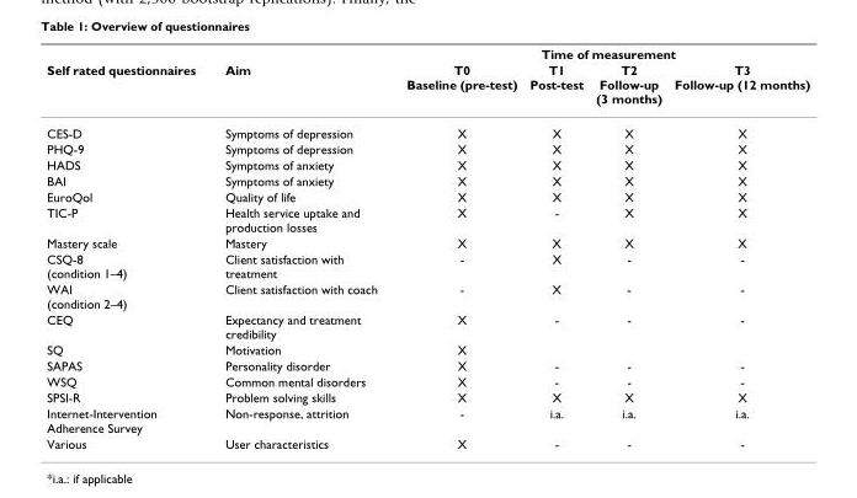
<table><thead><tr><td rowspan="2">Self rated questionnaires</td><td rowspan="2">Aim</td><td colspan="4">Time of measurement</td></tr><tr><td>T0 Baseline (pre-test)</td><td>T1 Post-test</td><td>T2 Follow-up (3 months)</td><td>T3 Follow-up (12 months)</td></tr></thead><tbody><tr><td>CES-D</td><td>Symptoms of depression</td><td>X</td><td>X</td><td>X</td><td>X</td></tr><tr><td>PHQ-9</td><td>Symptoms of depression</td><td>X</td><td>X</td><td>X</td><td>X</td></tr><tr><td>HADS</td><td>Symptoms of anxiety</td><td>X</td><td>X</td><td>X</td><td>X</td></tr><tr><td>BAI</td><td>Symptoms of anxiety</td><td>X</td><td>X</td><td>X</td><td>X</td></tr><tr><td>EuroQol</td><td>Quality of life</td><td>X</td><td>X</td><td>X</td><td>X</td></tr><tr><td>TIC-P</td><td>Health service uptake and production losses</td><td>X</td><td>-</td><td>X</td><td>X</td></tr><tr><td>Mastery scale</td><td>Mastery</td><td>X</td><td>X</td><td>X</td><td>X</td></tr><tr><td>CSQ-8 (condition 1–4)</td><td>Client satisfaction with treatment</td><td>-</td><td>X</td><td>-</td><td>-</td></tr><tr><td>WAI (condition 2–4)</td><td>Client satisfaction with coach</td><td>-</td><td>X</td><td>-</td><td>-</td></tr><tr><td>CEQ</td><td>Expectancy and treatment credibility</td><td>X</td><td>-</td><td>-</td><td>-</td></tr><tr><td>SQ</td><td>Motivation</td><td>X</td><td></td><td></td><td></td></tr><tr><td>SAPAS</td><td>Personality disorder</td><td>X</td><td>-</td><td>-</td><td>-</td></tr><tr><td>WSQ</td><td>Common mental disorders</td><td>X</td><td>-</td><td>-</td><td>-</td></tr><tr><td>SPSI-R</td><td>Problem solving skills</td><td>X</td><td>X</td><td>X</td><td>X</td></tr><tr><td>Internet-Intervention Adherence Survey</td><td>Non-response, attrition</td><td>-</td><td>i.a.</td><td>i.a.</td><td>i.a.</td></tr><tr><td>Various</td><td>User characteristics</td><td>X</td><td>-</td><td>-</td><td>-</td></tr></tbody></table>